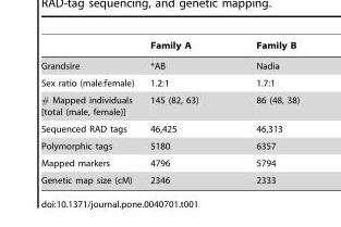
<table><thead><tr><td></td><td>Family A</td><td>Family B</td></tr></thead><tbody><tr><td>Grandsire</td><td>*AB</td><td>Nadia</td></tr><tr><td>Sex ratio (male:female)</td><td>1.2:1</td><td>1.7:1</td></tr><tr><td># Mapped individuals [total (male, female)]</td><td>145 (82, 63)</td><td>86 (48, 38)</td></tr><tr><td>Sequenced RAD tags</td><td>46,425</td><td>46,313</td></tr><tr><td>Polymorphic tags</td><td>5180</td><td>6357</td></tr><tr><td>Mapped markers</td><td>4796</td><td>5794</td></tr><tr><td>Genetic map size (cM)</td><td>2346</td><td>2333</td></tr></tbody></table>